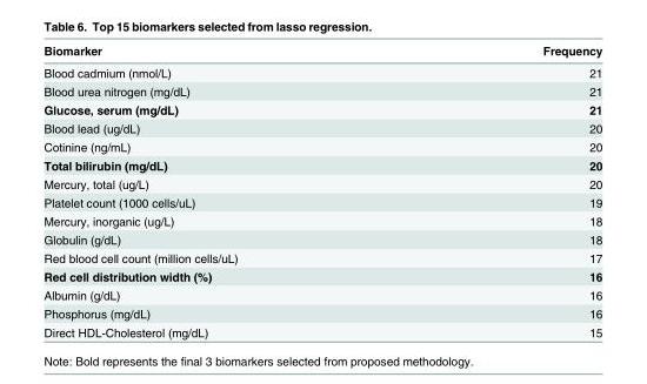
<table><thead><tr><td>Biomarker</td><td>Frequency</td></tr></thead><tbody><tr><td>Blood cadmium (nmol/L)</td><td>21</td></tr><tr><td>Blood urea nitrogen (mg/dL)</td><td>21</td></tr><tr><td>Glucose, serum (mg/dL)</td><td>21</td></tr><tr><td>Blood lead (ug/dL)</td><td>20</td></tr><tr><td>Cotinine (ng/mL)</td><td>20</td></tr><tr><td>Total bilirubin (mg/dL)</td><td>20</td></tr><tr><td>Mercury, total (ug/L)</td><td>20</td></tr><tr><td>Platelet count (1000 cells/uL)</td><td>19</td></tr><tr><td>Mercury, inorganic (ug/L)</td><td>18</td></tr><tr><td>Globulin (g/dL)</td><td>18</td></tr><tr><td>Red blood cell count (million cells/uL)</td><td>17</td></tr><tr><td>Red cell distribution width (%)</td><td>16</td></tr><tr><td>Albumin (g/dL)</td><td>16</td></tr><tr><td>Phosphorus (mg/dL)</td><td>16</td></tr><tr><td>Direct HDL-Cholesterol (mg/dL)</td><td>15</td></tr></tbody></table>